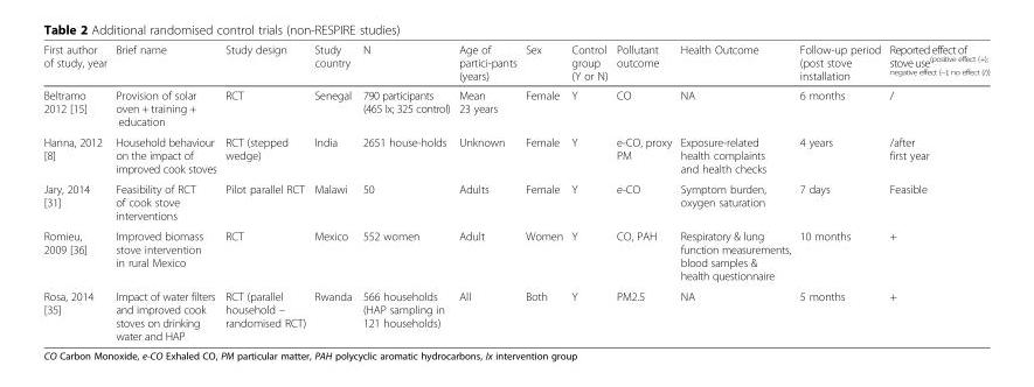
<table><thead><tr><td>First author of study, year</td><td>Brief name</td><td>Study design</td><td>Study country</td><td>N</td><td>Age of partici-pants (years)</td><td>Sex</td><td>Control group (Y or N)</td><td>Pollutant outcome</td><td>Health Outcome</td><td>Follow-up period (post stove installation</td><td>Reported effect of stove use<sup>(positive effect (+); negative effect (−); no effect (/))</sup></td></tr></thead><tbody><tr><td>Beltramo 2012 [15]</td><td>Provision of solar oven + training + education</td><td>RCT</td><td>Senegal</td><td>790 participants (465 Ix; 325 control)</td><td>Mean 23 years</td><td>Female</td><td>Y</td><td>CO</td><td>NA</td><td>6 months</td><td>/</td></tr><tr><td>Hanna, 2012 [8]</td><td>Household behaviour on the impact of improved cook stoves</td><td>RCT (stepped wedge)</td><td>India</td><td>2651 house-holds</td><td>Unknown</td><td>Female</td><td>Y</td><td>e-CO, proxy PM</td><td>Exposure-related health complaints and health checks</td><td>4 years</td><td>/after first year</td></tr><tr><td>Jary, 2014 [31]</td><td>Feasibility of RCT of cook stove interventions</td><td>Pilot parallel RCT</td><td>Malawi</td><td>50</td><td>Adults</td><td>Female</td><td>Y</td><td>e-CO</td><td>Symptom burden, oxygen saturation</td><td>7 days</td><td>Feasible</td></tr><tr><td>Romieu, 2009 [36]</td><td>Improved biomass stove intervention in rural Mexico</td><td>RCT</td><td>Mexico</td><td>552 women</td><td>Adult</td><td>Women</td><td>Y</td><td>CO, PAH</td><td>Respiratory &amp; lung function measurements, blood samples &amp; health questionnaire</td><td>10 months</td><td>+</td></tr><tr><td>Rosa, 2014 [35]</td><td>Impact of water filters and improved cook stoves on drinking water and HAP</td><td>RCT (parallel household – randomised RCT)</td><td>Rwanda</td><td>566 households (HAP sampling in 121 households)</td><td>All</td><td>Both</td><td>Y</td><td>PM2.5</td><td>NA</td><td>5 months</td><td>+</td></tr></tbody></table>